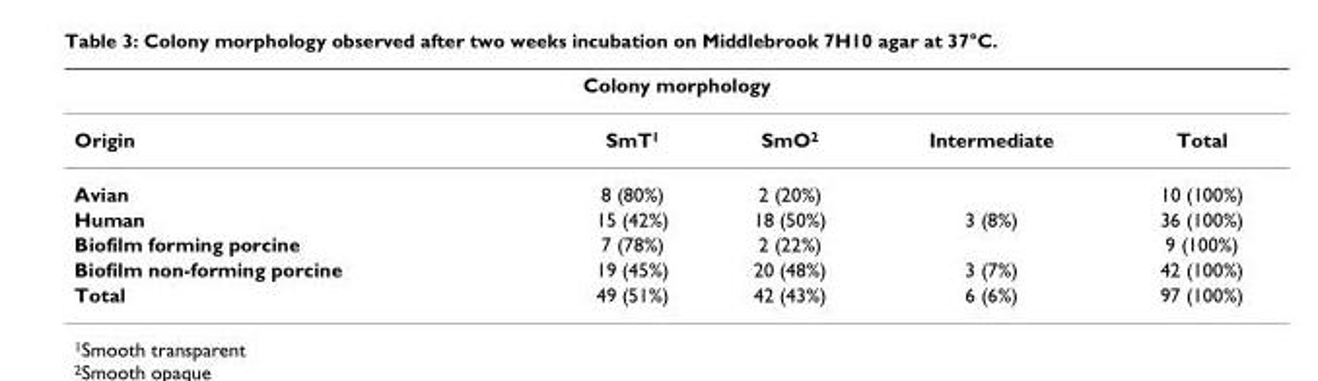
<table><thead><tr><td colspan="5">Colony morphology</td></tr><tr><td>Origin</td><td>SmT<sup>1</sup></td><td>SmO<sup>2</sup></td><td>Intermediate</td><td>Total</td></tr></thead><tbody><tr><td>Avian</td><td>8 (80%)</td><td>2 (20%)</td><td></td><td>10 (100%)</td></tr><tr><td>Human</td><td>15 (42%)</td><td>18 (50%)</td><td>3 (8%)</td><td>36 (100%)</td></tr><tr><td>Biofilm forming porcine</td><td>7 (78%)</td><td>2 (22%)</td><td></td><td>9 (100%)</td></tr><tr><td>Biofilm non-forming porcine</td><td>19 (45%)</td><td>20 (48%)</td><td>3 (7%)</td><td>42 (100%)</td></tr><tr><td>Total</td><td>49 (51%)</td><td>42 (43%)</td><td>6 (6%)</td><td>97 (100%)</td></tr></tbody></table>